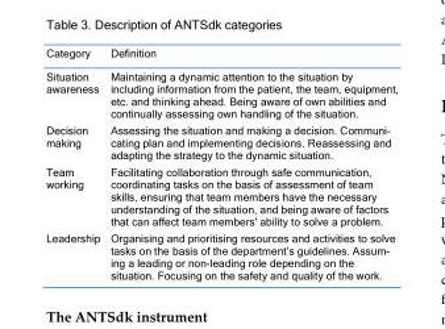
<table><tbody><tr><td>Category</td><td>Definition</td></tr><tr><td>Situation awareness</td><td>Maintaining a dynamic attention to the situation by including information from the patient, the team, equipment, etc. and thinking ahead. Being aware of own abilities and continually assessing own handling of the situation.</td></tr><tr><td>Decision making</td><td>Assessing the situation and making a decision. Communi- cating plan and implementing decisions. Reassessing and adapting the strategy to the dynamic situation.</td></tr><tr><td>Team working</td><td>Facilitating collaboration through safe communication, coordinating tasks on the basis of assessment of team skills, ensuring that team members have the necessary understanding of the situation, and being aware of factors that can affect team members&#x27; ability to solve a problem.</td></tr><tr><td>Leadership</td><td>Organising and prioritising resources and activities to solve tasks on the basis of the department’s guidelines. Assum- ing a leading or non-leading role depending on the situation. Focusing on the safety and quality of the work.</td></tr></tbody></table>